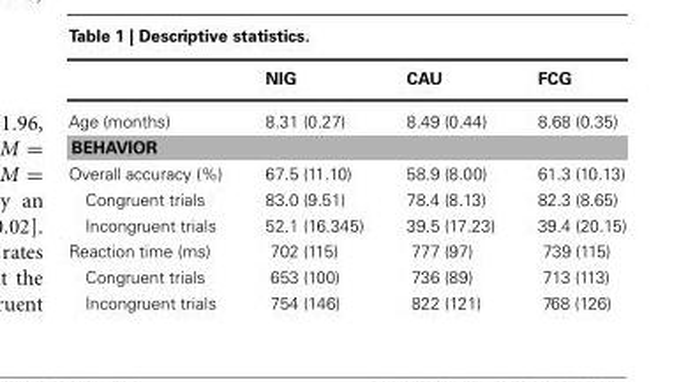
<table><thead><tr><td></td><td>NIG</td><td>CAU</td><td>FCG</td></tr></thead><tbody><tr><td>Age (months)</td><td>8.31 (0.27)</td><td>8.49 (0.44)</td><td>8.68 (0.35)</td></tr><tr><td colspan="4">BEHAVIOR</td></tr><tr><td>Overall accuracy (%)</td><td>67.5 (11.10)</td><td>58.9 (8.00)</td><td>61.3 (10.13)</td></tr><tr><td>Congruent trials</td><td>83.0 (9.51)</td><td>78.4 (8.13)</td><td>82.3 (8.65)</td></tr><tr><td>Incongruent trials</td><td>52.1 (16.345)</td><td>39.5 (17.23)</td><td>39.4 (20.15)</td></tr><tr><td>Reaction time (ms)</td><td>702 (115)</td><td>777 (97)</td><td>739 (115)</td></tr><tr><td>Congruent trials</td><td>653 (100)</td><td>736 (89)</td><td>713 (113)</td></tr><tr><td>Incongruent trials</td><td>754 (146)</td><td>822 (121)</td><td>768 (126)</td></tr></tbody></table>